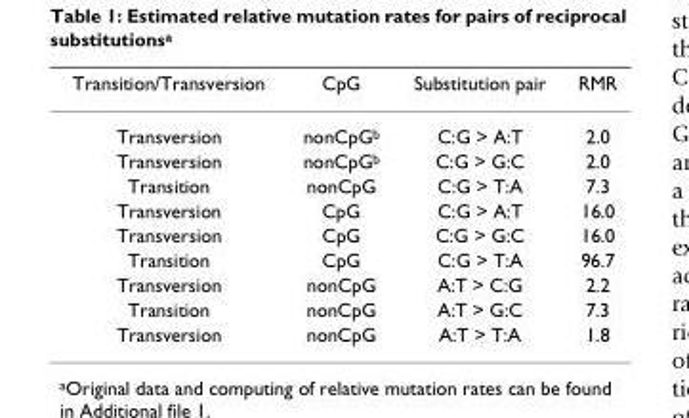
<table><thead><tr><td>Transition/Transversion</td><td>CpG</td><td>Substitution pair</td><td>RMR</td></tr></thead><tbody><tr><td>Transversion</td><td>nonCpG<sup>b</sup></td><td>C:G &gt; A:T</td><td>2.0</td></tr><tr><td>Transversion</td><td>nonCpG<sup>b</sup></td><td>C:G &gt; G:C</td><td>2.0</td></tr><tr><td>Transition</td><td>nonCpG</td><td>C:G &gt; T:A</td><td>7.3</td></tr><tr><td>Transversion</td><td>CpG</td><td>C:G &gt; A:T</td><td>16.0</td></tr><tr><td>Transversion</td><td>CpG</td><td>C:G &gt; G:C</td><td>16.0</td></tr><tr><td>Transition</td><td>CpG</td><td>C:G &gt; T:A</td><td>96.7</td></tr><tr><td>Transversion</td><td>nonCpG</td><td>A:T &gt; C:G</td><td>2.2</td></tr><tr><td>Transition</td><td>nonCpG</td><td>A:T &gt; G:C</td><td>7.3</td></tr><tr><td>Transversion</td><td>nonCpG</td><td>A:T &gt; T:A</td><td>1.8</td></tr></tbody></table>